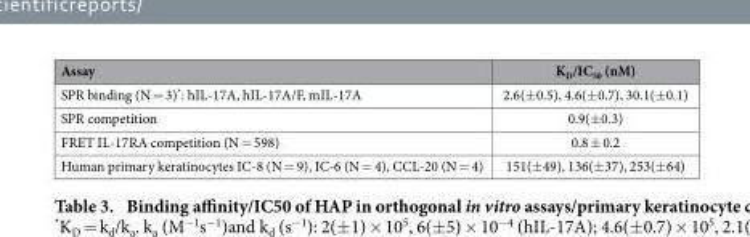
<table><thead><tr><td>Assay</td><td>K<sub>D</sub>/IC<sub>50</sub> (nM)</td></tr></thead><tbody><tr><td>SPR binding (N = 3)*: hIL-17A, hIL-17A/F, mIL-17A</td><td>2.6(± 0.5), 4.6(± 0.7), 30.1(± 0.1)</td></tr><tr><td>SPR competition</td><td>0.9(± 0.3)</td></tr><tr><td>FRET IL-17RA competition (N = 598)</td><td>0.8 ± 0.2</td></tr><tr><td>Human primary keratinocytes IC-8 (N = 9), IC-6 (N = 4), CCL-20 (N = 4)</td><td>151(± 49), 136(± 37), 253(± 64)</td></tr></tbody></table>